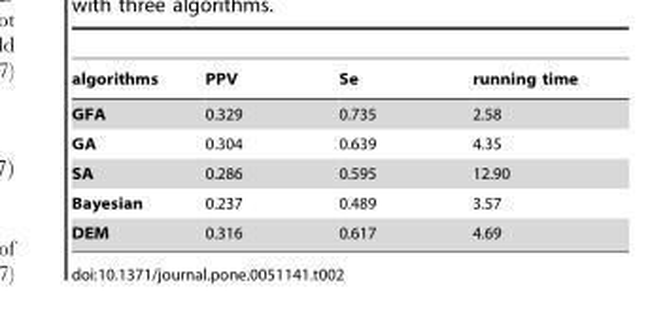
<table><thead><tr><td>algorithms</td><td>PPV</td><td>Se</td><td>running time</td></tr></thead><tbody><tr><td>GFA</td><td>0.329</td><td>0.735</td><td>2.58</td></tr><tr><td>GA</td><td>0.304</td><td>0.639</td><td>4.35</td></tr><tr><td>SA</td><td>0.286</td><td>0.595</td><td>12.90</td></tr><tr><td>Bayesian</td><td>0.237</td><td>0.489</td><td>3.57</td></tr><tr><td>DEM</td><td>0.316</td><td>0.617</td><td>4.69</td></tr></tbody></table>